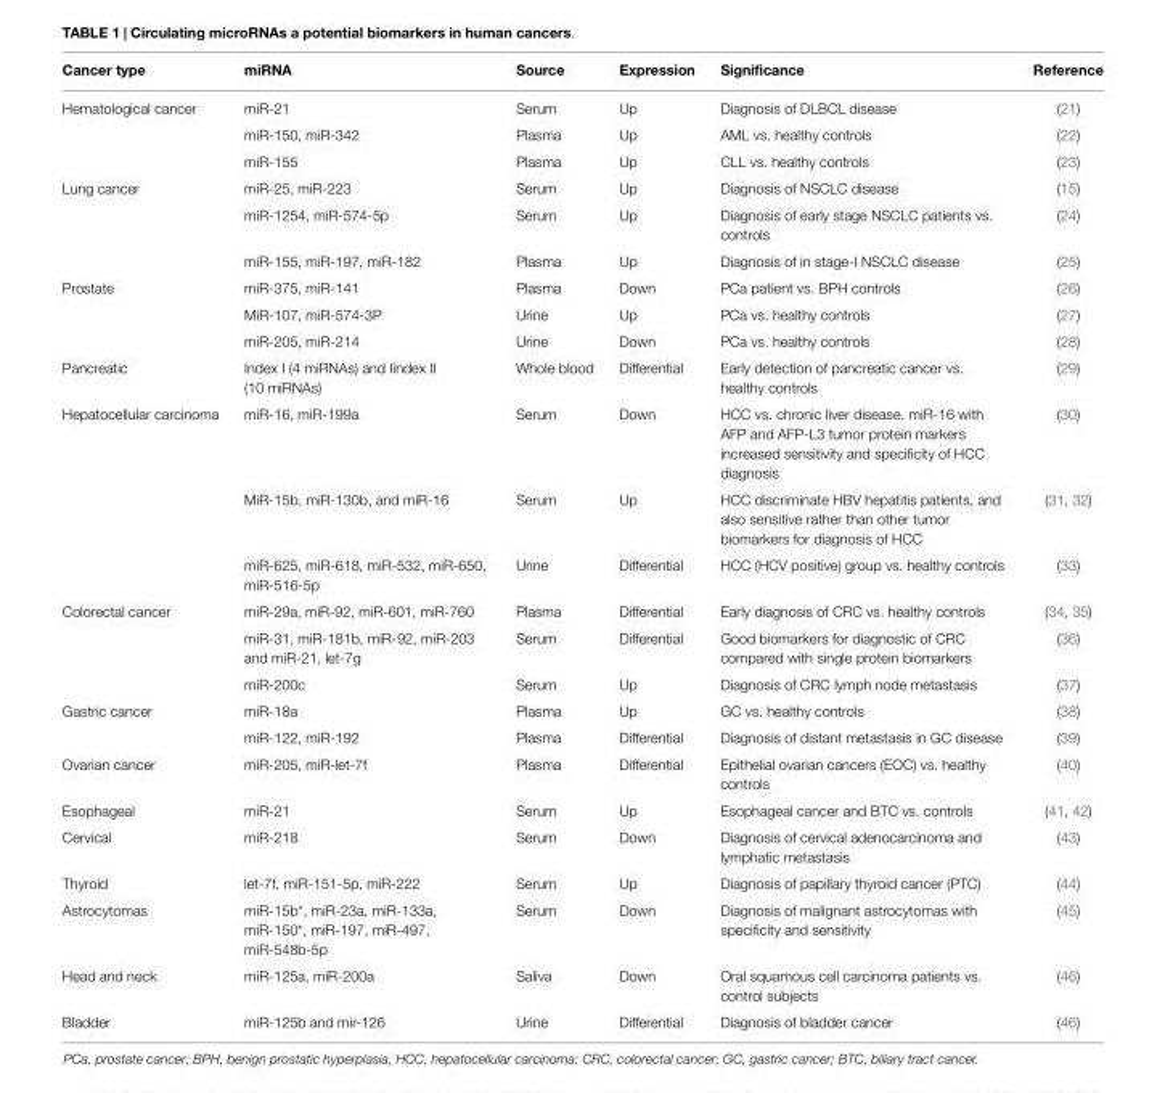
<table><thead><tr><td>Cancer type</td><td>miRNA</td><td>Source</td><td>Expression</td><td>Significance</td><td>Reference</td></tr></thead><tbody><tr><td rowspan="3">Hematological cancer</td><td>miR-21</td><td>Serum</td><td>Up</td><td>Diagnosis of DLBCL disease</td><td>(21)</td></tr><tr><td>miR-150, miR-342</td><td>Plasma</td><td>Up</td><td>AML vs. healthy controls</td><td>(22)</td></tr><tr><td>miR-155</td><td>Plasma</td><td>Up</td><td>CLL vs. healthy controls</td><td>(23)</td></tr><tr><td rowspan="3">Lung cancer</td><td>miR-25, miR-223</td><td>Serum</td><td>Up</td><td>Diagnosis of NSCLC disease</td><td>(15)</td></tr><tr><td>miR-1254, miR-574-5p</td><td>Serum</td><td>Up</td><td>Diagnosis of early stage NSCLC patients vs. controls</td><td>(24)</td></tr><tr><td>miR-155, miR-197, miR-182</td><td>Plasma</td><td>Up</td><td>Diagnosis of in stage-I NSCLC disease</td><td>(25)</td></tr><tr><td rowspan="3">Prostate</td><td>miR-375, miR-141</td><td>Plasma</td><td>Down</td><td>PCa patient vs. BPH controls</td><td>(26)</td></tr><tr><td>MiR-107, miR-574-3P</td><td>Urine</td><td>Up</td><td>PCa vs. healthy controls</td><td>(27)</td></tr><tr><td>miR-205, miR-214</td><td>Urine</td><td>Down</td><td>PCa vs. healthy controls</td><td>(28)</td></tr><tr><td>Pancreatic</td><td>Index I (4 miRNAs) and Iindex II (10 miRNAs)</td><td>Whole blood</td><td>Differential</td><td>Early detection of pancreatic cancer vs. healthy controls</td><td>(29)</td></tr><tr><td rowspan="3">Hepatocellular carcinoma</td><td>miR-16, miR-199a</td><td>Serum</td><td>Down</td><td>HCC vs. chronic liver disease. miR-16 with AFP and AFP-L3 tumor protein markers increased sensitivity and specificity of HCC diagnosis</td><td>(30)</td></tr><tr><td>MiR-15b, miR-130b, and miR-16</td><td>Serum</td><td>Up</td><td>HCC discriminate HBV hepatitis patients, and also sensitive rather than other tumor biomarkers for diagnosis of HCC</td><td>(31, 32)</td></tr><tr><td>miR-625, miR-618, miR-532, miR-650, miR-516-5p</td><td>Urine</td><td>Differential</td><td>HCC (HCV positive) group vs. healthy controls</td><td>(33)</td></tr><tr><td rowspan="3">Colorectal cancer</td><td>miR-29a, miR-92, miR-601, miR-760</td><td>Plasma</td><td>Differential</td><td>Early diagnosis of CRC vs. healthy controls</td><td>(34, 35)</td></tr><tr><td>miR-31, miR-181b, miR-92, miR-203 and miR-21, let-7g</td><td>Serum</td><td>Differential</td><td>Good biomarkers for diagnostic of CRC compared with single protein biomarkers</td><td>(36)</td></tr><tr><td>miR-200c</td><td>Serum</td><td>Up</td><td>Diagnosis of CRC lymph node metastasis</td><td>(37)</td></tr><tr><td rowspan="2">Gastric cancer</td><td>miR-18a</td><td>Plasma</td><td>Up</td><td>GC vs. healthy controls</td><td>(38)</td></tr><tr><td>miR-122, miR-192</td><td>Plasma</td><td>Differential</td><td>Diagnosis of distant metastasis in GC disease</td><td>(39)</td></tr><tr><td>Ovarian cancer</td><td>miR-205, miR-let-7f</td><td>Plasma</td><td>Differential</td><td>Epithelial ovarian cancers (EOC) vs. healthy controls</td><td>(40)</td></tr><tr><td>Esophageal</td><td>miR-21</td><td>Serum</td><td>Up</td><td>Esophageal cancer and BTC vs. controls</td><td>(41, 42)</td></tr><tr><td>Cervical</td><td>miR-218</td><td>Serum</td><td>Down</td><td>Diagnosis of cervical adenocarcinoma and lymphatic metastasis</td><td>(43)</td></tr><tr><td>Thyroid</td><td>let-7f, miR-151-5p, miR-222</td><td>Serum</td><td>Up</td><td>Diagnosis of papillary thyroid cancer (PTC)</td><td>(44)</td></tr><tr><td>Astrocytomas</td><td>miR-15b*, miR-23a, miR-133a, miR-150*, miR-197, miR-497, miR-548b-5p</td><td>Serum</td><td>Down</td><td>Diagnosis of malignant astrocytomas with specificity and sensitivity</td><td>(45)</td></tr><tr><td>Head and neck</td><td>miR-125a, miR-200a</td><td>Saliva</td><td>Down</td><td>Oral squamous cell carcinoma patients vs. control subjects</td><td>(46)</td></tr><tr><td>Bladder</td><td>miR-125b and mir-126</td><td>Urine</td><td>Differential</td><td>Diagnosis of bladder cancer</td><td>(46)</td></tr></tbody></table>